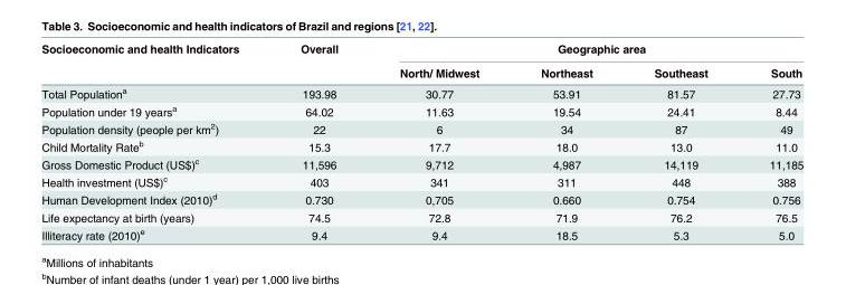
<table><thead><tr><td rowspan="2">Socioeconomic and health Indicators</td><td rowspan="2">Overall</td><td colspan="4">Geographic area</td></tr><tr><td>North/ Midwest</td><td>Northeast</td><td>Southeast</td><td>South</td></tr></thead><tbody><tr><td>Total Population<sup>a</sup></td><td>193.98</td><td>30.77</td><td>53.91</td><td>81.57</td><td>27.73</td></tr><tr><td>Population under 19 years<sup>a</sup></td><td>64.02</td><td>11.63</td><td>19.54</td><td>24.41</td><td>8.44</td></tr><tr><td>Population density (people per km<sup>2</sup>)</td><td>22</td><td>6</td><td>34</td><td>87</td><td>49</td></tr><tr><td>Child Mortality Rate<sup>b</sup></td><td>15.3</td><td>17.7</td><td>18.0</td><td>13.0</td><td>11.0</td></tr><tr><td>Gross Domestic Product (US$)<sup>c</sup></td><td>11,596</td><td>9,712</td><td>4,987</td><td>14,119</td><td>11,185</td></tr><tr><td>Health investment (US$)<sup>c</sup></td><td>403</td><td>341</td><td>311</td><td>448</td><td>388</td></tr><tr><td>Human Development Index (2010)<sup>d</sup></td><td>0.730</td><td>0,705</td><td>0.660</td><td>0.754</td><td>0.756</td></tr><tr><td>Life expectancy at birth (years)</td><td>74.5</td><td>72.8</td><td>71.9</td><td>76.2</td><td>76.5</td></tr><tr><td>Illiteracy rate (2010)<sup>e</sup></td><td>9.4</td><td>9.4</td><td>18.5</td><td>5.3</td><td>5.0</td></tr></tbody></table>